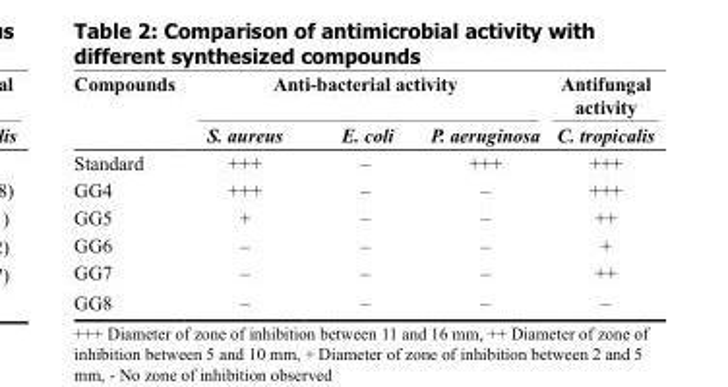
<table><thead><tr><td rowspan="2">Compounds</td><td colspan="3">Anti-bacterial activity</td><td rowspan="2">Antifungal activity C. tropicalis</td></tr><tr><td>S. aureus</td><td>E. coli</td><td>P. aeruginosa</td></tr></thead><tbody><tr><td>Standard</td><td>+++</td><td>–</td><td>+++</td><td>+++</td></tr><tr><td>GG4</td><td>+++</td><td>–</td><td>–</td><td>+++</td></tr><tr><td>GG5</td><td>+</td><td>–</td><td>–</td><td>++</td></tr><tr><td>GG6</td><td>–</td><td>–</td><td>–</td><td>+</td></tr><tr><td>GG7</td><td>–</td><td>–</td><td>–</td><td>++</td></tr><tr><td>GG8</td><td>–</td><td>–</td><td>–</td><td>–</td></tr></tbody></table>